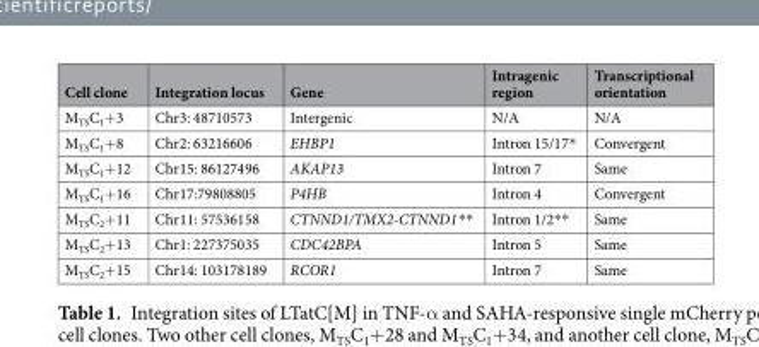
<table><thead><tr><td>Cell clone</td><td>Integration locus</td><td>Gene</td><td>Intragenic region</td><td>Transcriptional orientation</td></tr></thead><tbody><tr><td>M<sub>TS</sub>C<sub>1</sub>+3</td><td>Chr3: 48710573</td><td>Intergenic</td><td>N/A</td><td>N/A</td></tr><tr><td>M<sub>TS</sub>C<sub>1</sub>+8</td><td>Chr2: 63216606</td><td>EHBP1</td><td>Intron 15/17*</td><td>Convergent</td></tr><tr><td>M<sub>TS</sub>C<sub>1</sub>+12</td><td>Chr15: 86127496</td><td>AKAP13</td><td>Intron 7</td><td>Same</td></tr><tr><td>M<sub>TS</sub>C<sub>1</sub>+16</td><td>Chr17:79808805</td><td>P4HB</td><td>Intron 4</td><td>Convergent</td></tr><tr><td>M<sub>TS</sub>C<sub>2</sub>+11</td><td>Chr11: 57536158</td><td>CTNND1/TMX2-CTNND1**</td><td>Intron 1/2**</td><td>Same</td></tr><tr><td>M<sub>TS</sub>C<sub>2</sub>+13</td><td>Chr1: 227375035</td><td>CDC42BPA</td><td>Intron 5</td><td>Same</td></tr><tr><td>M<sub>TS</sub>C<sub>2</sub>+15</td><td>Chr14: 103178189</td><td>RCOR1</td><td>Intron 7</td><td>Same</td></tr></tbody></table>